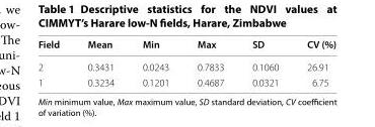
<table><thead><tr><td>Field</td><td>Mean</td><td>Min</td><td>Max</td><td>SD</td><td>CV (%)</td></tr></thead><tbody><tr><td>2</td><td>0.3431</td><td>0.0243</td><td>0.7833</td><td>0.1060</td><td>26.91</td></tr><tr><td>1</td><td>0.3234</td><td>0.1201</td><td>0.4687</td><td>0.0321</td><td>6.75</td></tr></tbody></table>